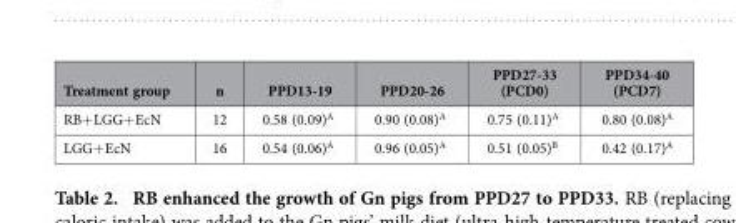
<table><thead><tr><td>Treatment group</td><td>n</td><td>PPD13-19</td><td>PPD20-26</td><td>PPD27-33 (PCD0)</td><td>PPD34-40 (PCD7)</td></tr></thead><tbody><tr><td>RB+ LGG+ EcN</td><td>12</td><td>0.58 (0.09)<sup>A</sup></td><td>0.90 (0.08)<sup>A</sup></td><td>0.75 (0.11)<sup>A</sup></td><td>0.80 (0.08)<sup>A</sup></td></tr><tr><td>LGG+ EcN</td><td>16</td><td>0.54 (0.06)<sup>A</sup></td><td>0.96 (0.05)<sup>A</sup></td><td>0.51 (0.05)<sup>B</sup></td><td>0.42 (0.17)<sup>A</sup></td></tr></tbody></table>